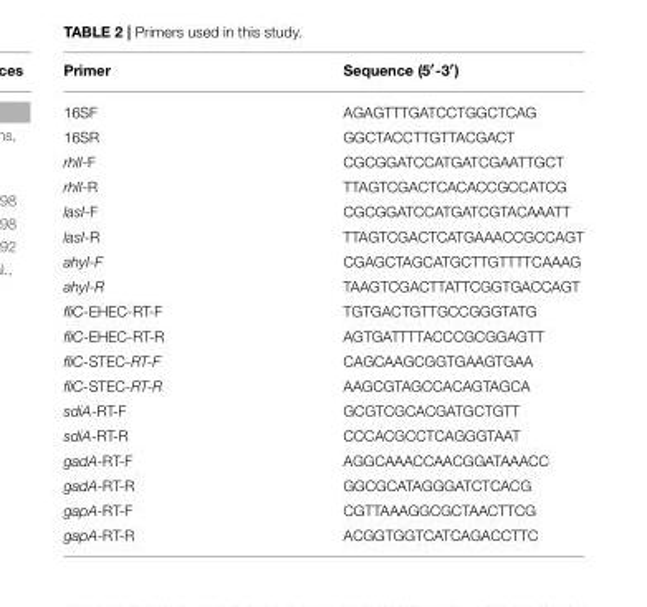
<table><thead><tr><td>Primer</td><td>Sequence (5′-3′)</td></tr></thead><tbody><tr><td>16SF</td><td>AGAGTTTGATCCTGGCTCAG</td></tr><tr><td>16SR</td><td>GGCTACCTTGTTACGACT</td></tr><tr><td>rhlI-F</td><td>CGCGGATCCATGATCGAATTGCT</td></tr><tr><td>rhlI-R</td><td>TTAGTCGACTCACACCGCCATCG</td></tr><tr><td>lasI-F</td><td>CGCGGATCCATGATCGTACAAATT</td></tr><tr><td>lasI-R</td><td>TTAGTCGACTCATGAAACCGCCAGT</td></tr><tr><td>ahyI-F</td><td>CGAGCTAGCATGCTTGTTTTCAAAG</td></tr><tr><td>ahyI-R</td><td>TAAGTCGACTTATTCGGTGACCAGT</td></tr><tr><td>fliC-EHEC-RT-F</td><td>TGTGACTGTTGCCGGGTATG</td></tr><tr><td>fliC-EHEC-RT-R</td><td>AGTGATTTTACCCGCGGAGTT</td></tr><tr><td>fliC-STEC-RT-F</td><td>CAGCAAGCGGTGAAGTGAA</td></tr><tr><td>fliC-STEC-RT-R</td><td>AAGCGTAGCCACAGTAGCA</td></tr><tr><td>sdiA-RT-F</td><td>GCGTCGCACGATGCTGTT</td></tr><tr><td>sdiA-RT-R</td><td>CCCACGCCTCAGGGTAAT</td></tr><tr><td>gadA-RT-F</td><td>AGGCAAACCAACGGATAAACC</td></tr><tr><td>gadA-RT-R</td><td>GGCGCATAGGGATCTCACG</td></tr><tr><td>gapA-RT-F</td><td>CGTTAAAGGCGCTAACTTCG</td></tr><tr><td>gapA-RT-R</td><td>ACGGTGGTCATCAGACCTTC</td></tr></tbody></table>